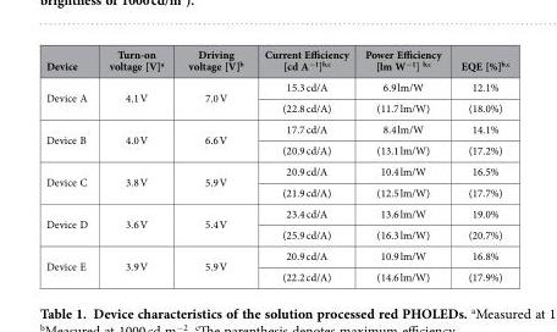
<table><thead><tr><td>Device</td><td>Turn-on voltage [V]<sup>a</sup></td><td>Driving voltage [V]<sup>b</sup></td><td>Current Efficiency [cd A<sup>−1</sup>]<sup>b</sup>,<sup>c</sup></td><td>Power Efficiency [lm W<sup>−1</sup>] b,c</td><td>EQE [%]<sup>b</sup>,<sup>c</sup></td></tr></thead><tbody><tr><td rowspan="2">Device A</td><td rowspan="2">4.1 V</td><td rowspan="2">7.0 V</td><td>15.3 cd/A</td><td>6.9 lm/W</td><td>12.1%</td></tr><tr><td>(22.8 cd/A)</td><td>(11.7 lm/W)</td><td>(18.0%)</td></tr><tr><td rowspan="2">Device B</td><td rowspan="2">4.0 V</td><td rowspan="2">6.6 V</td><td>17.7 cd/A</td><td>8.4 lm/W</td><td>14.1%</td></tr><tr><td>(20.9 cd/A)</td><td>(13.1 lm/W)</td><td>(17.2%)</td></tr><tr><td rowspan="2">Device C</td><td rowspan="2">3.8 V</td><td rowspan="2">5.9 V</td><td>20.9 cd/A</td><td>10.4 lm/W</td><td>16.5%</td></tr><tr><td>(21.9 cd/A)</td><td>(12.5 lm/W)</td><td>(17.7%)</td></tr><tr><td rowspan="2">Device D</td><td rowspan="2">3.6 V</td><td rowspan="2">5.4 V</td><td>23.4 cd/A</td><td>13.6 lm/W</td><td>19.0%</td></tr><tr><td>(25.9 cd/A)</td><td>(16.3 lm/W)</td><td>(20.7%)</td></tr><tr><td rowspan="2">Device E</td><td rowspan="2">3.9 V</td><td rowspan="2">5.9 V</td><td>20.9 cd/A</td><td>10.9 lm/W</td><td>16.8%</td></tr><tr><td>(22.2 cd/A)</td><td>(14.6 lm/W)</td><td>(17.9%)</td></tr></tbody></table>